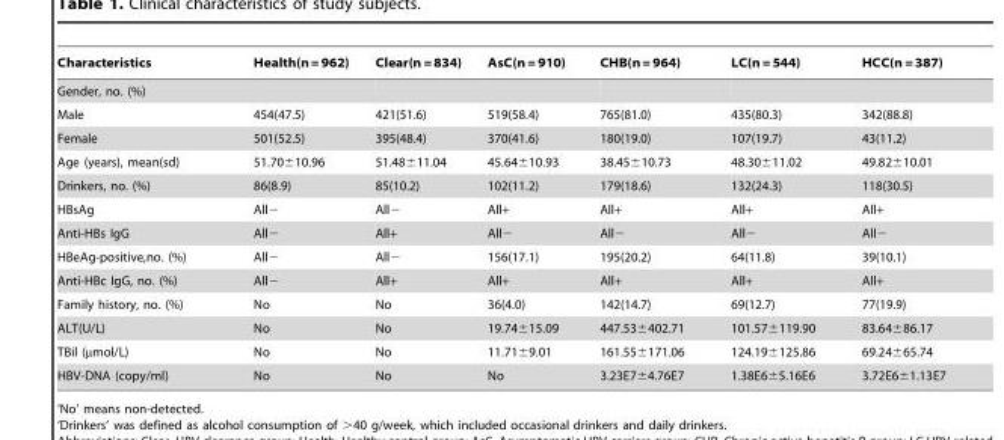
<table><thead><tr><td>Characteristics</td><td>Health(n = 962)</td><td>Clear(n = 834)</td><td>AsC(n = 910)</td><td>CHB(n = 964)</td><td>LC(n = 544)</td><td>HCC(n = 387)</td></tr></thead><tbody><tr><td colspan="7">Gender, no. (%)</td></tr><tr><td>Male</td><td>454(47.5)</td><td>421(51.6)</td><td>519(58.4)</td><td>765(81.0)</td><td>435(80.3)</td><td>342(88.8)</td></tr><tr><td>Female</td><td>501(52.5)</td><td>395(48.4)</td><td>370(41.6)</td><td>180(19.0)</td><td>107(19.7)</td><td>43(11.2)</td></tr><tr><td>Age (years), mean(sd)</td><td>51.70±10.96</td><td>51.48±11.04</td><td>45.64±10.93</td><td>38.45±10.73</td><td>48.30±11.02</td><td>49.82±10.01</td></tr><tr><td>Drinkers, no. (%)</td><td>86(8.9)</td><td>85(10.2)</td><td>102(11.2)</td><td>179(18.6)</td><td>132(24.3)</td><td>118(30.5)</td></tr><tr><td>HBsAg</td><td>All−</td><td>All−</td><td>All+</td><td>All+</td><td>All+</td><td>All+</td></tr><tr><td>Anti-HBs IgG</td><td>All−</td><td>All+</td><td>All−</td><td>All−</td><td>All−</td><td>All−</td></tr><tr><td>HBeAg-positive,no. (%)</td><td>All−</td><td>All−</td><td>156(17.1)</td><td>195(20.2)</td><td>64(11.8)</td><td>39(10.1)</td></tr><tr><td>Anti-HBc IgG, no. (%)</td><td>All−</td><td>All+</td><td>All+</td><td>All+</td><td>All+</td><td>All+</td></tr><tr><td>Family history, no. (%)</td><td>No</td><td>No</td><td>36(4.0)</td><td>142(14.7)</td><td>69(12.7)</td><td>77(19.9)</td></tr><tr><td>ALT(U/L)</td><td>No</td><td>No</td><td>19.74±15.09</td><td>447.53±402.71</td><td>101.57±119.90</td><td>83.64±86.17</td></tr><tr><td>TBil (µmol/L)</td><td>No</td><td>No</td><td>11.71±9.01</td><td>161.55±171.06</td><td>124.19±125.86</td><td>69.24±65.74</td></tr><tr><td>HBV-DNA (copy/ml)</td><td>No</td><td>No</td><td>No</td><td>3.23E7±4.76E7</td><td>1.38E6±5.16E6</td><td>3.72E6±1.13E7</td></tr></tbody></table>